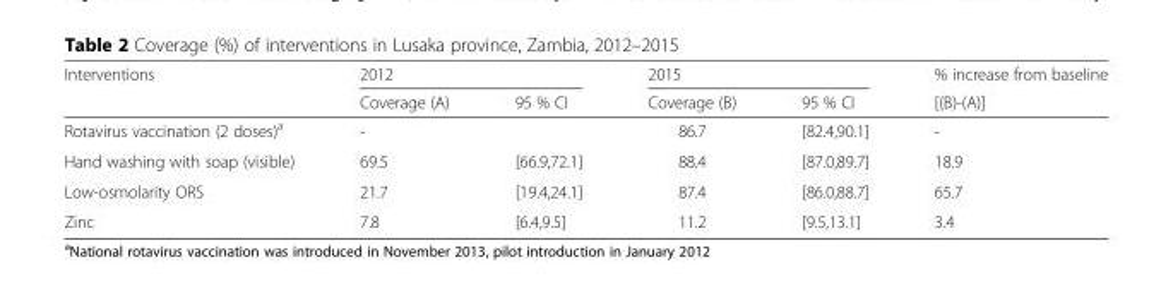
<table><thead><tr><td rowspan="2">Interventions</td><td colspan="2">2012</td><td colspan="2">2015</td><td rowspan="2">% increase from baseline [(B)-(A)]</td></tr><tr><td>Coverage (A)</td><td>95 % CI</td><td>Coverage (B)</td><td>95 % CI</td></tr></thead><tbody><tr><td>Rotavirus vaccination (2 doses)<sup>a</sup></td><td>-</td><td></td><td>86.7</td><td>[82.4,90.1]</td><td>-</td></tr><tr><td>Hand washing with soap (visible)</td><td>69.5</td><td>[66.9,72.1]</td><td>88.4</td><td>[87.0,89.7]</td><td>18.9</td></tr><tr><td>Low-osmolarity ORS</td><td>21.7</td><td>[19.4,24.1]</td><td>87.4</td><td>[86.0,88.7]</td><td>65.7</td></tr><tr><td>Zinc</td><td>7.8</td><td>[6.4,9.5]</td><td>11.2</td><td>[9.5,13.1]</td><td>3.4</td></tr></tbody></table>